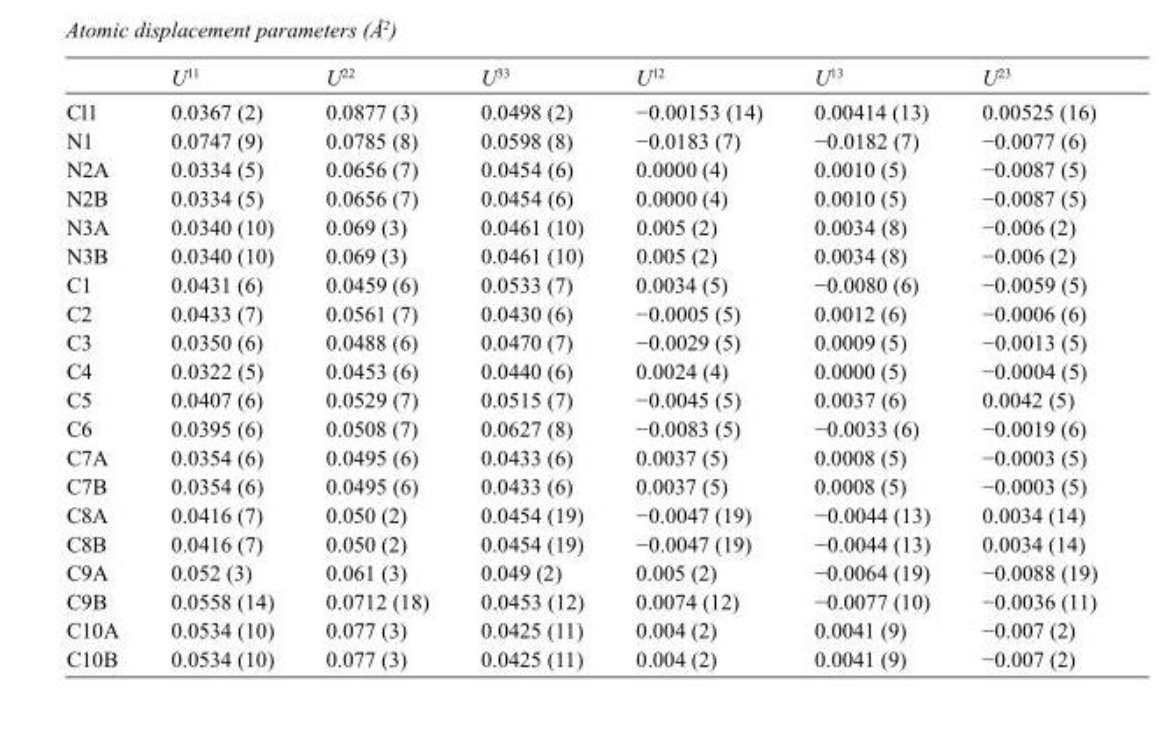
<table><thead><tr><td></td><td>U<sup>11</sup></td><td>U<sup>22</sup></td><td>U<sup>33</sup></td><td>U<sup>12</sup></td><td>U<sup>13</sup></td><td>U<sup>23</sup></td></tr></thead><tbody><tr><td>Cl1</td><td>0.0367 (2)</td><td>0.0877 (3)</td><td>0.0498 (2)</td><td>−0.00153 (14)</td><td>0.00414 (13)</td><td>0.00525 (16)</td></tr><tr><td>N1</td><td>0.0747 (9)</td><td>0.0785 (8)</td><td>0.0598 (8)</td><td>−0.0183 (7)</td><td>−0.0182 (7)</td><td>−0.0077 (6)</td></tr><tr><td>N2A</td><td>0.0334 (5)</td><td>0.0656 (7)</td><td>0.0454 (6)</td><td>0.0000 (4)</td><td>0.0010 (5)</td><td>−0.0087 (5)</td></tr><tr><td>N2B</td><td>0.0334 (5)</td><td>0.0656 (7)</td><td>0.0454 (6)</td><td>0.0000 (4)</td><td>0.0010 (5)</td><td>−0.0087 (5)</td></tr><tr><td>N3A</td><td>0.0340 (10)</td><td>0.069 (3)</td><td>0.0461 (10)</td><td>0.005 (2)</td><td>0.0034 (8)</td><td>−0.006 (2)</td></tr><tr><td>N3B</td><td>0.0340 (10)</td><td>0.069 (3)</td><td>0.0461 (10)</td><td>0.005 (2)</td><td>0.0034 (8)</td><td>−0.006 (2)</td></tr><tr><td>C1</td><td>0.0431 (6)</td><td>0.0459 (6)</td><td>0.0533 (7)</td><td>0.0034 (5)</td><td>−0.0080 (6)</td><td>−0.0059 (5)</td></tr><tr><td>C2</td><td>0.0433 (7)</td><td>0.0561 (7)</td><td>0.0430 (6)</td><td>−0.0005 (5)</td><td>0.0012 (6)</td><td>−0.0006 (6)</td></tr><tr><td>C3</td><td>0.0350 (6)</td><td>0.0488 (6)</td><td>0.0470 (7)</td><td>−0.0029 (5)</td><td>0.0009 (5)</td><td>−0.0013 (5)</td></tr><tr><td>C4</td><td>0.0322 (5)</td><td>0.0453 (6)</td><td>0.0440 (6)</td><td>0.0024 (4)</td><td>0.0000 (5)</td><td>−0.0004 (5)</td></tr><tr><td>C5</td><td>0.0407 (6)</td><td>0.0529 (7)</td><td>0.0515 (7)</td><td>−0.0045 (5)</td><td>0.0037 (6)</td><td>0.0042 (5)</td></tr><tr><td>C6</td><td>0.0395 (6)</td><td>0.0508 (7)</td><td>0.0627 (8)</td><td>−0.0083 (5)</td><td>−0.0033 (6)</td><td>−0.0019 (6)</td></tr><tr><td>C7A</td><td>0.0354 (6)</td><td>0.0495 (6)</td><td>0.0433 (6)</td><td>0.0037 (5)</td><td>0.0008 (5)</td><td>−0.0003 (5)</td></tr><tr><td>C7B</td><td>0.0354 (6)</td><td>0.0495 (6)</td><td>0.0433 (6)</td><td>0.0037 (5)</td><td>0.0008 (5)</td><td>−0.0003 (5)</td></tr><tr><td>C8A</td><td>0.0416 (7)</td><td>0.050 (2)</td><td>0.0454 (19)</td><td>−0.0047 (19)</td><td>−0.0044 (13)</td><td>0.0034 (14)</td></tr><tr><td>C8B</td><td>0.0416 (7)</td><td>0.050 (2)</td><td>0.0454 (19)</td><td>−0.0047 (19)</td><td>−0.0044 (13)</td><td>0.0034 (14)</td></tr><tr><td>C9A</td><td>0.052 (3)</td><td>0.061 (3)</td><td>0.049 (2)</td><td>0.005 (2)</td><td>−0.0064 (19)</td><td>−0.0088 (19)</td></tr><tr><td>C9B</td><td>0.0558 (14)</td><td>0.0712 (18)</td><td>0.0453 (12)</td><td>0.0074 (12)</td><td>−0.0077 (10)</td><td>−0.0036 (11)</td></tr><tr><td>C10A</td><td>0.0534 (10)</td><td>0.077 (3)</td><td>0.0425 (11)</td><td>0.004 (2)</td><td>0.0041 (9)</td><td>−0.007 (2)</td></tr><tr><td>C10B</td><td>0.0534 (10)</td><td>0.077 (3)</td><td>0.0425 (11)</td><td>0.004 (2)</td><td>0.0041 (9)</td><td>−0.007 (2)</td></tr></tbody></table>